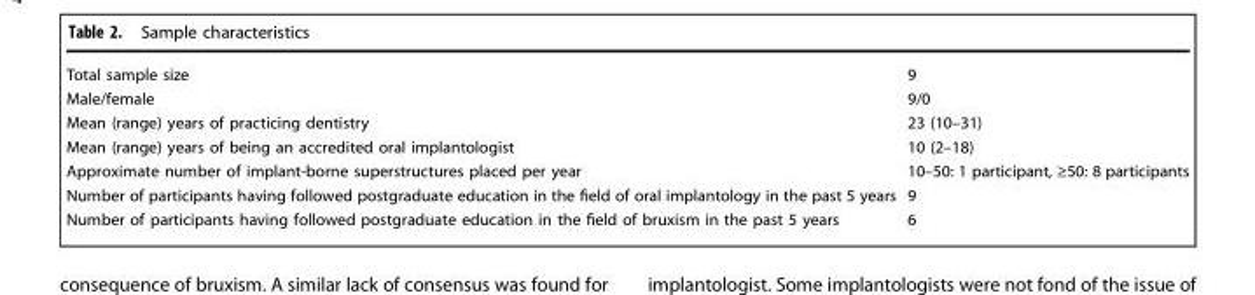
<table><tbody><tr><td>Total sample size</td><td>9</td></tr><tr><td>Male/female</td><td>9/0</td></tr><tr><td>Mean (range) years of practicing dentistry</td><td>23 (10–31)</td></tr><tr><td>Mean (range) years of being an accredited oral implantologist</td><td>10 (2–18)</td></tr><tr><td>Approximate number of implant-borne superstructures placed per year</td><td>10–50: 1 participant, ≥50: 8 participants</td></tr><tr><td>Number of participants having followed postgraduate education in the field of oral implantology in the past 5 years</td><td>9</td></tr><tr><td>Number of participants having followed postgraduate education in the field of bruxism in the past 5 years</td><td>6</td></tr></tbody></table>